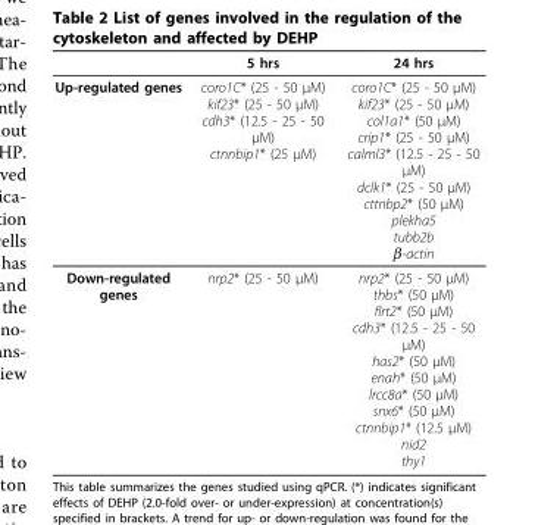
<table><thead><tr><td></td><td>5 hrs</td><td>24 hrs</td></tr></thead><tbody><tr><td>Up-regulated genes</td><td>coro1C* (25 - 50 μM) kif23* (25 - 50 μM) cdh3* (12.5 - 25 - 50 μM) ctnnbip1* (25 μM)</td><td>coro1C* (25 - 50 μM) kif23* (25 - 50 μM) col1a1* (50 μM) crip1* (25 - 50 μM) calml3* (12.5 - 25 - 50 μM) dclk1* (25 - 50 μM) cttnbp2* (50 μM) plekha5 tubb2b β-actin</td></tr><tr><td>Down-regulated genes</td><td>nrp2* (25 - 50 μM)</td><td>nrp2* (25 - 50 μM) thbs* (50 μM) flrt2* (50 μM) cdh3* (12.5 - 25 - 50 μM) has2* (50 μM) enah* (50 μM) lrcc8a* (50 μM) snx6* (50 μM) ctnnbip1* (12.5 μM) nid2 thy1</td></tr></tbody></table>